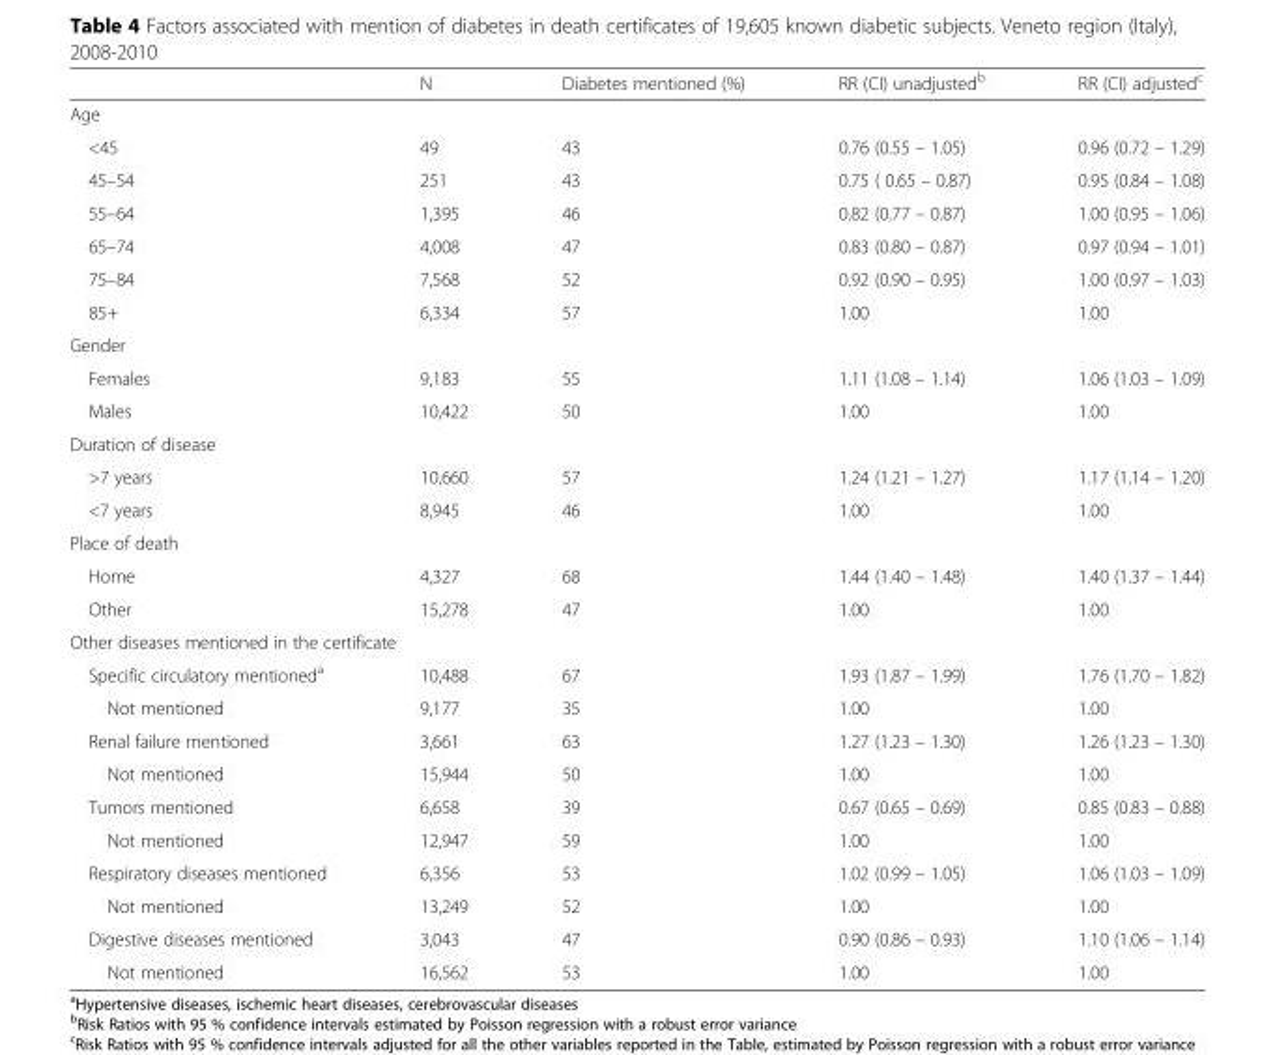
<table><thead><tr><td></td><td>N</td><td>Diabetes mentioned (%)</td><td>RR (CI) unadjusted<sup>b</sup></td><td>RR (CI) adjusted<sup>c</sup></td></tr></thead><tbody><tr><td colspan="5">Age</td></tr><tr><td>&lt;45</td><td>49</td><td>43</td><td>0.76 (0.55 – 1.05)</td><td>0.96 (0.72 – 1.29)</td></tr><tr><td>45–54</td><td>251</td><td>43</td><td>0.75 ( 0.65 – 0.87)</td><td>0.95 (0.84 – 1.08)</td></tr><tr><td>55–64</td><td>1,395</td><td>46</td><td>0.82 (0.77 – 0.87)</td><td>1.00 (0.95 – 1.06)</td></tr><tr><td>65–74</td><td>4,008</td><td>47</td><td>0.83 (0.80 – 0.87)</td><td>0.97 (0.94 – 1.01)</td></tr><tr><td>75–84</td><td>7,568</td><td>52</td><td>0.92 (0.90 – 0.95)</td><td>1.00 (0.97 – 1.03)</td></tr><tr><td>85+</td><td>6,334</td><td>57</td><td>1.00</td><td>1.00</td></tr><tr><td colspan="5">Gender</td></tr><tr><td>Females</td><td>9,183</td><td>55</td><td>1.11 (1.08 – 1.14)</td><td>1.06 (1.03 – 1.09)</td></tr><tr><td>Males</td><td>10,422</td><td>50</td><td>1.00</td><td>1.00</td></tr><tr><td colspan="5">Duration of disease</td></tr><tr><td>&gt;7 years</td><td>10,660</td><td>57</td><td>1.24 (1.21 – 1.27)</td><td>1.17 (1.14 – 1.20)</td></tr><tr><td>&lt;7 years</td><td>8,945</td><td>46</td><td>1.00</td><td>1.00</td></tr><tr><td colspan="5">Place of death</td></tr><tr><td>Home</td><td>4,327</td><td>68</td><td>1.44 (1.40 – 1.48)</td><td>1.40 (1.37 – 1.44)</td></tr><tr><td>Other</td><td>15,278</td><td>47</td><td>1.00</td><td>1.00</td></tr><tr><td colspan="5">Other diseases mentioned in the certificate</td></tr><tr><td>Specific circulatory mentioned<sup>a</sup></td><td>10,488</td><td>67</td><td>1.93 (1.87 – 1.99)</td><td>1.76 (1.70 – 1.82)</td></tr><tr><td>Not mentioned</td><td>9,177</td><td>35</td><td>1.00</td><td>1.00</td></tr><tr><td>Renal failure mentioned</td><td>3,661</td><td>63</td><td>1.27 (1.23 – 1.30)</td><td>1.26 (1.23 – 1.30)</td></tr><tr><td>Not mentioned</td><td>15,944</td><td>50</td><td>1.00</td><td>1.00</td></tr><tr><td>Tumors mentioned</td><td>6,658</td><td>39</td><td>0.67 (0.65 – 0.69)</td><td>0.85 (0.83 – 0.88)</td></tr><tr><td>Not mentioned</td><td>12,947</td><td>59</td><td>1.00</td><td>1.00</td></tr><tr><td>Respiratory diseases mentioned</td><td>6,356</td><td>53</td><td>1.02 (0.99 – 1.05)</td><td>1.06 (1.03 – 1.09)</td></tr><tr><td>Not mentioned</td><td>13,249</td><td>52</td><td>1.00</td><td>1.00</td></tr><tr><td>Digestive diseases mentioned</td><td>3,043</td><td>47</td><td>0.90 (0.86 – 0.93)</td><td>1.10 (1.06 – 1.14)</td></tr><tr><td>Not mentioned</td><td>16,562</td><td>53</td><td>1.00</td><td>1.00</td></tr></tbody></table>